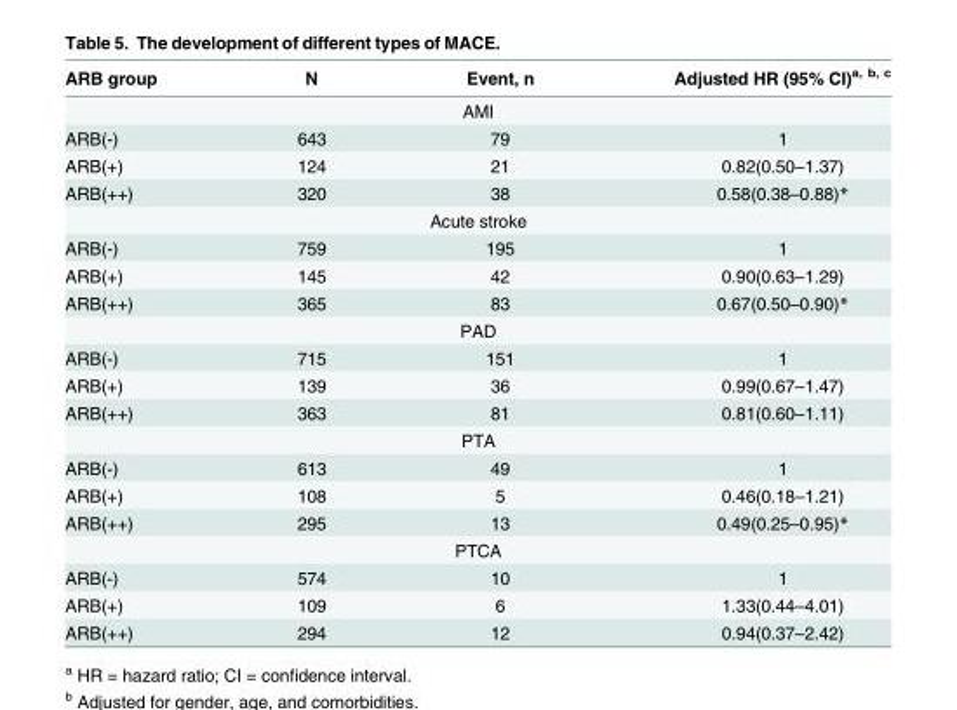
<table><thead><tr><td>ARB group</td><td>N</td><td>Event, n</td><td>Adjusted HR (95% CI)<sup>a, b, c</sup></td></tr></thead><tbody><tr><td colspan="4">AMI</td></tr><tr><td>ARB(-)</td><td>643</td><td>79</td><td>1</td></tr><tr><td>ARB(+)</td><td>124</td><td>21</td><td>0.82(0.50–1.37)</td></tr><tr><td>ARB(++)</td><td>320</td><td>38</td><td>0.58(0.38–0.88)*</td></tr><tr><td colspan="4">Acute stroke</td></tr><tr><td>ARB(-)</td><td>759</td><td>195</td><td>1</td></tr><tr><td>ARB(+)</td><td>145</td><td>42</td><td>0.90(0.63–1.29)</td></tr><tr><td>ARB(++)</td><td>365</td><td>83</td><td>0.67(0.50–0.90)*</td></tr><tr><td colspan="4">PAD</td></tr><tr><td>ARB(-)</td><td>715</td><td>151</td><td>1</td></tr><tr><td>ARB(+)</td><td>139</td><td>36</td><td>0.99(0.67–1.47)</td></tr><tr><td>ARB(++)</td><td>363</td><td>81</td><td>0.81(0.60–1.11)</td></tr><tr><td colspan="4">PTA</td></tr><tr><td>ARB(-)</td><td>613</td><td>49</td><td>1</td></tr><tr><td>ARB(+)</td><td>108</td><td>5</td><td>0.46(0.18–1.21)</td></tr><tr><td>ARB(++)</td><td>295</td><td>13</td><td>0.49(0.25–0.95)*</td></tr><tr><td colspan="4">PTCA</td></tr><tr><td>ARB(-)</td><td>574</td><td>10</td><td>1</td></tr><tr><td>ARB(+)</td><td>109</td><td>6</td><td>1.33(0.44–4.01)</td></tr><tr><td>ARB(++)</td><td>294</td><td>12</td><td>0.94(0.37–2.42)</td></tr></tbody></table>